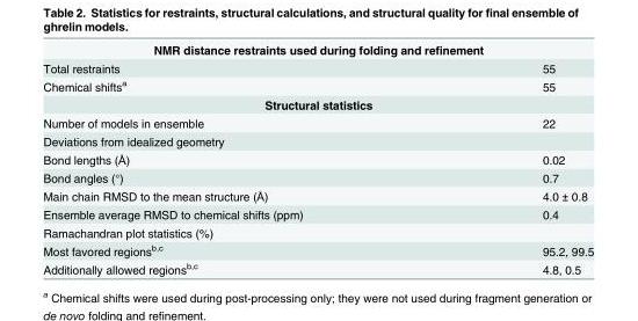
<table><tbody><tr><td colspan="2">NMR distance restraints used during folding and refinement</td></tr><tr><td>Total restraints</td><td>55</td></tr><tr><td>Chemical shifts<sup>a</sup></td><td>55</td></tr><tr><td colspan="2">Structural statistics</td></tr><tr><td>Number of models in ensemble</td><td>22</td></tr><tr><td colspan="2">Deviations from idealized geometry</td></tr><tr><td>Bond lengths (Å)</td><td>0.02</td></tr><tr><td>Bond angles (°)</td><td>0.7</td></tr><tr><td>Main chain RMSD to the mean structure (Å)</td><td>4.0 ± 0.8</td></tr><tr><td>Ensemble average RMSD to chemical shifts (ppm)</td><td>0.4</td></tr><tr><td colspan="2">Ramachandran plot statistics (%)</td></tr><tr><td>Most favored regions<sup>b</sup>,<sup>c</sup></td><td>95.2, 99.5</td></tr><tr><td>Additionally allowed regions<sup>b</sup>,<sup>c</sup></td><td>4.8, 0.5</td></tr></tbody></table>